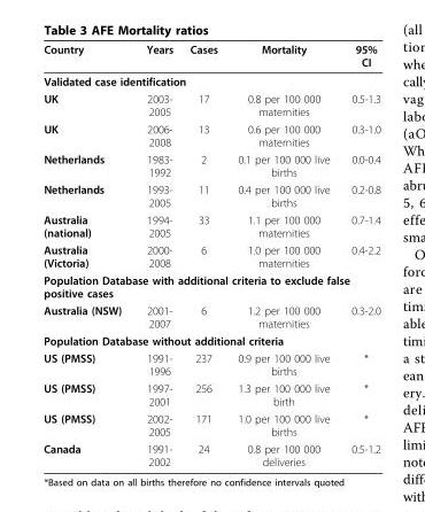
<table><thead><tr><td>Country</td><td>Years</td><td>Cases</td><td>Mortality</td><td>95% CI</td></tr></thead><tbody><tr><td colspan="5">Validated case identification</td></tr><tr><td>UK</td><td>2003- 2005</td><td>17</td><td>0.8 per 100 000 maternities</td><td>0.5-1.3</td></tr><tr><td>UK</td><td>2006- 2008</td><td>13</td><td>0.6 per 100 000 maternities</td><td>0.3-1.0</td></tr><tr><td>Netherlands</td><td>1983- 1992</td><td>2</td><td>0.1 per 100 000 live births</td><td>0.0-0.4</td></tr><tr><td>Netherlands</td><td>1993- 2005</td><td>11</td><td>0.4 per 100 000 live births</td><td>0.2-0.8</td></tr><tr><td>Australia (national)</td><td>1994- 2005</td><td>33</td><td>1.1 per 100 000 maternities</td><td>0.7-1.4</td></tr><tr><td>Australia (Victoria)</td><td>2000- 2008</td><td>6</td><td>1.0 per 100 000 maternities</td><td>0.4-2.2</td></tr><tr><td colspan="5">Population Database with additional criteria to exclude false positive cases</td></tr><tr><td>Australia (NSW)</td><td>2001- 2007</td><td>6</td><td>1.2 per 100 000 maternities</td><td>0.3-2.0</td></tr><tr><td colspan="5">Population Database without additional criteria</td></tr><tr><td>US (PMSS)</td><td>1991- 1996</td><td>237</td><td>0.9 per 100 000 live births</td><td>*</td></tr><tr><td>US (PMSS)</td><td>1997- 2001</td><td>256</td><td>1.3 per 100 000 live birth</td><td>*</td></tr><tr><td>US (PMSS)</td><td>2002- 2005</td><td>171</td><td>1.0 per 100 000 live births</td><td>*</td></tr><tr><td>Canada</td><td>1991- 2002</td><td>24</td><td>0.8 per 100 000 deliveries</td><td>0.5-1.2</td></tr></tbody></table>